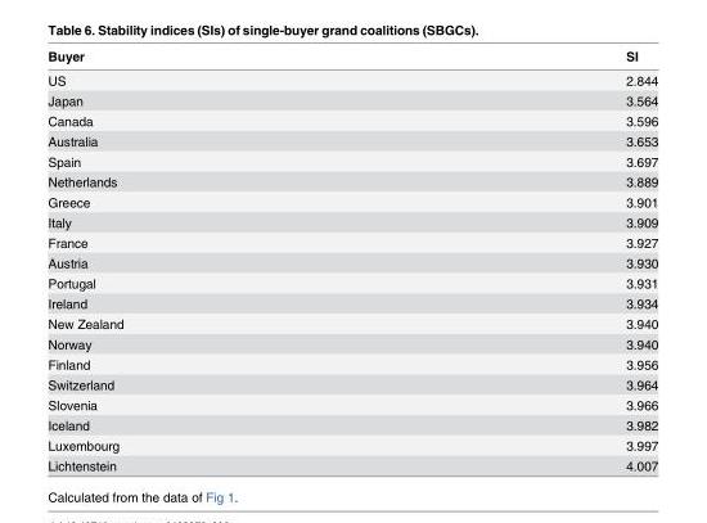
<table><thead><tr><td>Buyer</td><td>SI</td></tr></thead><tbody><tr><td>US</td><td>2.844</td></tr><tr><td>Japan</td><td>3.564</td></tr><tr><td>Canada</td><td>3.596</td></tr><tr><td>Australia</td><td>3.653</td></tr><tr><td>Spain</td><td>3.697</td></tr><tr><td>Netherlands</td><td>3.889</td></tr><tr><td>Greece</td><td>3.901</td></tr><tr><td>Italy</td><td>3.909</td></tr><tr><td>France</td><td>3.927</td></tr><tr><td>Austria</td><td>3.930</td></tr><tr><td>Portugal</td><td>3.931</td></tr><tr><td>Ireland</td><td>3.934</td></tr><tr><td>New Zealand</td><td>3.940</td></tr><tr><td>Norway</td><td>3.940</td></tr><tr><td>Finland</td><td>3.956</td></tr><tr><td>Switzerland</td><td>3.964</td></tr><tr><td>Slovenia</td><td>3.966</td></tr><tr><td>Iceland</td><td>3.982</td></tr><tr><td>Luxembourg</td><td>3.997</td></tr><tr><td>Lichtenstein</td><td>4.007</td></tr></tbody></table>